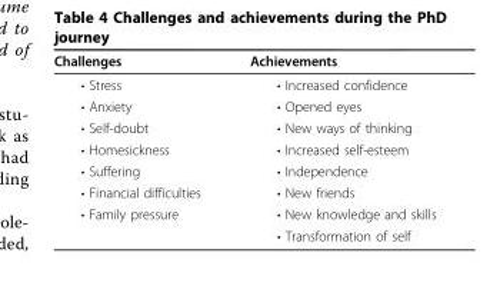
<table><thead><tr><td>Challenges</td><td>Achievements</td></tr></thead><tbody><tr><td>• Stress</td><td>• Increased confidence</td></tr><tr><td>• Anxiety</td><td>• Opened eyes</td></tr><tr><td>• Self-doubt</td><td>• New ways of thinking</td></tr><tr><td>• Homesickness</td><td>• Increased self-esteem</td></tr><tr><td>• Suffering</td><td>• Independence</td></tr><tr><td>• Financial difficulties</td><td>• New friends</td></tr><tr><td rowspan="2">• Family pressure</td><td>• New knowledge and skills</td></tr><tr><td>• Transformation of self</td></tr></tbody></table>